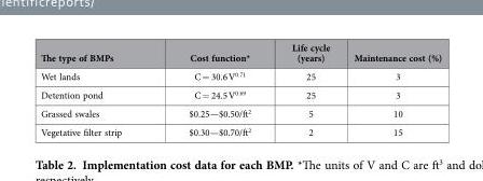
<table><thead><tr><td>The type of BMPs</td><td>Cost function*</td><td>Life cycle (years)</td><td>Maintenance cost (%)</td></tr></thead><tbody><tr><td>Wet lands</td><td>C = 30.6 V<sup>0.71</sup></td><td>25</td><td>3</td></tr><tr><td>Detention pond</td><td>C = 24.5 V<sup>0.69</sup></td><td>25</td><td>3</td></tr><tr><td>Grassed swales</td><td>$0.25—$0.50/ft<sup>2</sup></td><td>5</td><td>10</td></tr><tr><td>Vegetative filter strip</td><td>$0.30—$0.70/ft<sup>2</sup></td><td>2</td><td>15</td></tr></tbody></table>